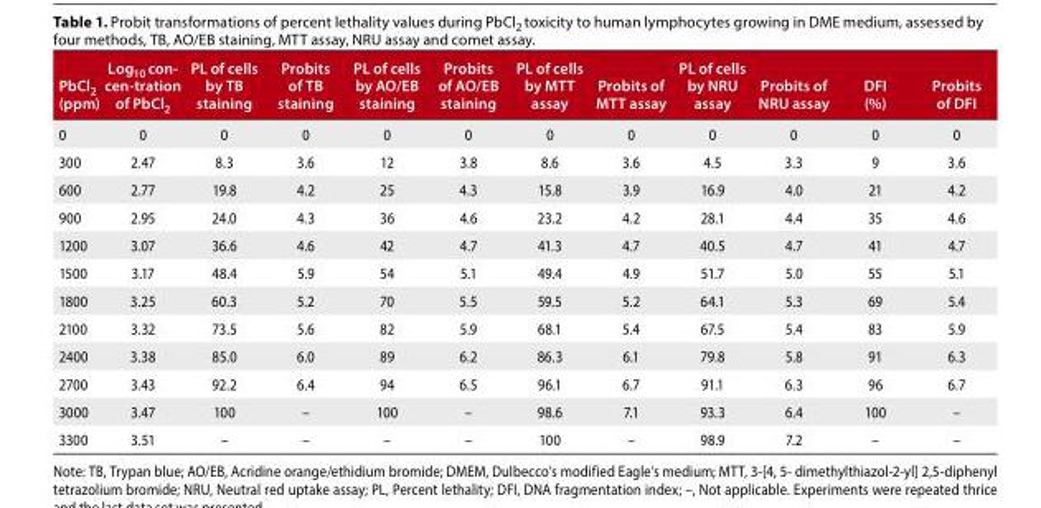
<table><thead><tr><td>PbCl<sub>2</sub> (ppm)</td><td>Log10 con- cen-tration of PbCl2</td><td>PL of cells by TB staining</td><td>Probits of TB staining</td><td>PL of cells by AO/EB staining</td><td>Probits of AO/EB staining</td><td>PL of cells by MTT assay</td><td>Probits of MTT assay</td><td>PL of cells by NRU assay</td><td>Probits of NRU assay</td><td>DFI (%)</td><td>Probits of DFI</td></tr></thead><tbody><tr><td>0</td><td>0</td><td>0</td><td>0</td><td>0</td><td>0</td><td>0</td><td>0</td><td>0</td><td>0</td><td>0</td><td>0</td></tr><tr><td>300</td><td>2.47</td><td>8.3</td><td>3.6</td><td>12</td><td>3.8</td><td>8.6</td><td>3.6</td><td>4.5</td><td>3.3</td><td>9</td><td>3.6</td></tr><tr><td>600</td><td>2.77</td><td>19.8</td><td>4.2</td><td>25</td><td>4.3</td><td>15.8</td><td>3.9</td><td>16.9</td><td>4.0</td><td>21</td><td>4.2</td></tr><tr><td>900</td><td>2.95</td><td>24.0</td><td>4.3</td><td>36</td><td>4.6</td><td>23.2</td><td>4.2</td><td>28.1</td><td>4.4</td><td>35</td><td>4.6</td></tr><tr><td>1200</td><td>3.07</td><td>36.6</td><td>4.6</td><td>42</td><td>4.7</td><td>41.3</td><td>4.7</td><td>40.5</td><td>4.7</td><td>41</td><td>4.7</td></tr><tr><td>1500</td><td>3.17</td><td>48.4</td><td>5.9</td><td>54</td><td>5.1</td><td>49.4</td><td>4.9</td><td>51.7</td><td>5.0</td><td>55</td><td>5.1</td></tr><tr><td>1800</td><td>3.25</td><td>60.3</td><td>5.2</td><td>70</td><td>5.5</td><td>59.5</td><td>5.2</td><td>64.1</td><td>5.3</td><td>69</td><td>5.4</td></tr><tr><td>2100</td><td>3.32</td><td>73.5</td><td>5.6</td><td>82</td><td>5.9</td><td>68.1</td><td>5.4</td><td>67.5</td><td>5.4</td><td>83</td><td>5.9</td></tr><tr><td>2400</td><td>3.38</td><td>85.0</td><td>6.0</td><td>89</td><td>6.2</td><td>86.3</td><td>6.1</td><td>79.8</td><td>5.8</td><td>91</td><td>6.3</td></tr><tr><td>2700</td><td>3.43</td><td>92.2</td><td>6.4</td><td>94</td><td>6.5</td><td>96.1</td><td>6.7</td><td>91.1</td><td>6.3</td><td>96</td><td>6.7</td></tr><tr><td>3000</td><td>3.47</td><td>100</td><td>–</td><td>100</td><td>–</td><td>98.6</td><td>7.1</td><td>93.3</td><td>6.4</td><td>100</td><td>–</td></tr><tr><td>3300</td><td>3.51</td><td><sub>–</sub></td><td><sub>–</sub></td><td><sub>–</sub></td><td><sub>–</sub></td><td>100</td><td><sub>–</sub></td><td>98.9</td><td>7.2</td><td>–</td><td><sub>–</sub></td></tr></tbody></table>